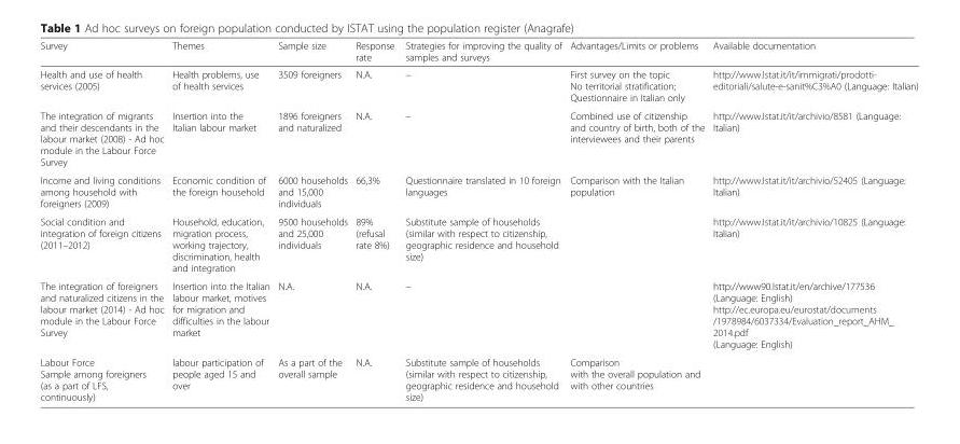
<table><thead><tr><td>Survey</td><td>Themes</td><td>Sample size</td><td>Response rate</td><td>Strategies for improving the quality of samples and surveys</td><td>Advantages/Limits or problems</td><td>Available documentation</td></tr></thead><tbody><tr><td>Health and use of health services (2005)</td><td>Health problems, use of health services</td><td>3509 foreigners</td><td>N.A.</td><td>–</td><td>First survey on the topic No territorial stratification; Questionnaire in Italian only</td><td>http://www.Istat.it/it/immigrati/prodotti- editoriali/salute-e-sanit%C3%A0 (Language: Italian)</td></tr><tr><td>The integration of migrants and their descendants in the labour market (2008) - Ad hoc module in the Labour Force Survey</td><td>Insertion into the Italian labour market</td><td>1896 foreigners and naturalized</td><td>N.A.</td><td>–</td><td>Combined use of citizenship and country of birth, both of the interviewees and their parents</td><td>http://www.Istat.it/it/archivio/8581 (Language: Italian)</td></tr><tr><td>Income and living conditions among household with foreigners (2009)</td><td>Economic condition of the foreign household</td><td>6000 households and 15,000 individuals</td><td>66,3%</td><td>Questionnaire translated in 10 foreign languages</td><td>Comparison with the Italian population</td><td>http://www.Istat.it/it/archivio/52405 (Language: Italian)</td></tr><tr><td>Social condition and integration of foreign citizens (2011–2012)</td><td>Household, education, migration process, working trajectory, discrimination, health and integration</td><td>9500 households and 25,000 individuals</td><td>89% (refusal rate 8%)</td><td>Substitute sample of households (similar with respect to citizenship, geographic residence and household size)</td><td></td><td>http://www.Istat.it/it/archivio/10825 (Language: Italian)</td></tr><tr><td>The integration of foreigners and naturalized citizens in the labour market (2014) - Ad hoc module in the Labour Force Survey</td><td>Insertion into the Italian labour market, motives for migration and difficulties in the labour market</td><td>N.A.</td><td>N.A.</td><td>–</td><td></td><td>http://www90.Istat.it/en/archive/177536 (Language: English) http://ec.europa.eu/eurostat/documents /1978984/6037334/Evaluation_report_AHM_ 2014.pdf (Language: English)</td></tr><tr><td>Labour Force Sample among foreigners (as a part of LFS, continuously)</td><td>labour participation of people aged 15 and over</td><td>As a part of the overall sample</td><td>N.A.</td><td>Substitute sample of households (similar with respect to citizenship, geographic residence and household size)</td><td>Comparison with the overall population and with other countries</td><td></td></tr></tbody></table>